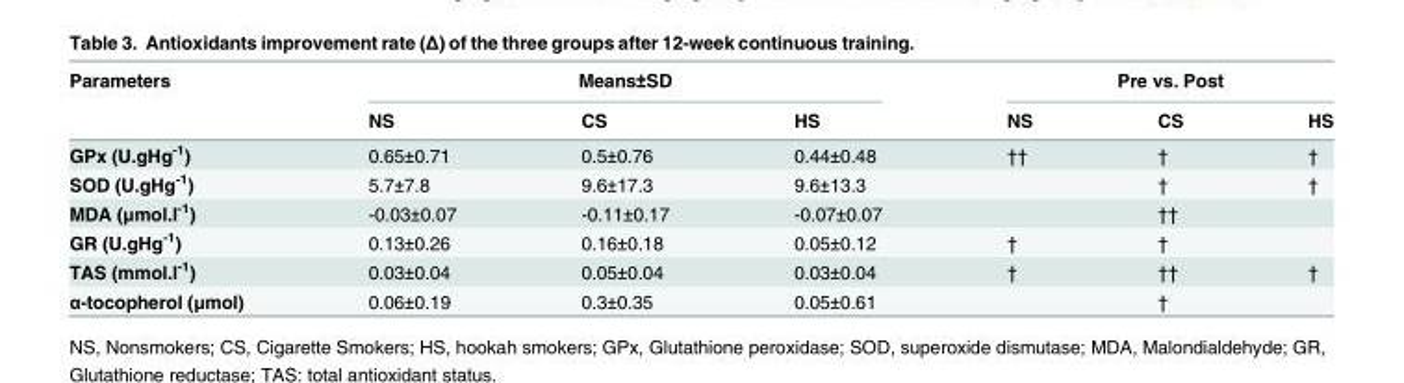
<table><thead><tr><td rowspan="2">Parameters</td><td colspan="3">Means±SD</td><td colspan="3">Pre vs. Post</td></tr><tr><td>NS</td><td>CS</td><td>HS</td><td>NS</td><td>CS</td><td>HS</td></tr></thead><tbody><tr><td>GPx (U.gHg<sup>-1</sup>)</td><td>0.65±0.71</td><td>0.5±0.76</td><td>0.44±0.48</td><td>††</td><td>†</td><td>†</td></tr><tr><td>SOD (U.gHg<sup>-1</sup>)</td><td>5.7±7.8</td><td>9.6±17.3</td><td>9.6±13.3</td><td></td><td>†</td><td>†</td></tr><tr><td>MDA (μmol.l<sup>-1</sup>)</td><td>-0.03±0.07</td><td>-0.11±0.17</td><td>-0.07±0.07</td><td></td><td>††</td><td></td></tr><tr><td>GR (U.gHg<sup>-1</sup>)</td><td>0.13±0.26</td><td>0.16±0.18</td><td>0.05±0.12</td><td>†</td><td>†</td><td></td></tr><tr><td>TAS (mmol.l<sup>-1</sup>)</td><td>0.03±0.04</td><td>0.05±0.04</td><td>0.03±0.04</td><td>†</td><td>††</td><td>†</td></tr><tr><td>α-tocopherol (μmol)</td><td>0.06±0.19</td><td>0.3±0.35</td><td>0.05±0.61</td><td></td><td>†</td><td></td></tr></tbody></table>